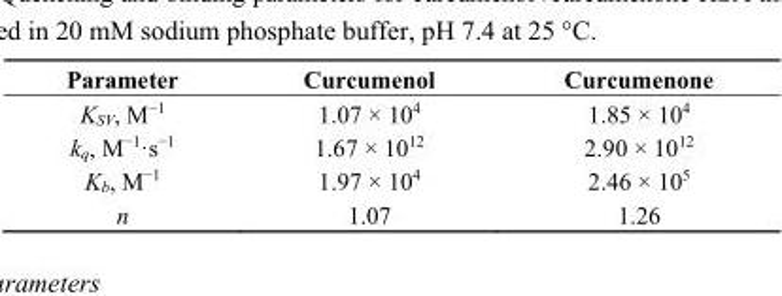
<table><thead><tr><td>Parameter</td><td>Curcumenol</td><td>Curcumenone</td></tr></thead><tbody><tr><td>K<sub>SV</sub>, M<sup>−1</sup></td><td>1.07 × 10<sup>4</sup></td><td>1.85 × 10<sup>4</sup></td></tr><tr><td>k<sub>q</sub>, M<sup>−1</sup>·s<sup>−1</sup></td><td>1.67 × 10<sup>12</sup></td><td>2.90 × 10<sup>12</sup></td></tr><tr><td>K<sub>b</sub>, M<sup>−1</sup></td><td>1.97 × 10<sup>4</sup></td><td>2.46 × 10<sup>5</sup></td></tr><tr><td>n</td><td>1.07</td><td>1.26</td></tr></tbody></table>